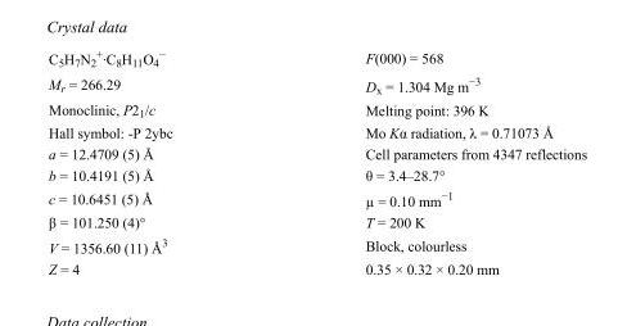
<table><tbody><tr><td>C<sub>5</sub>H<sub>7</sub>N<sub>2</sub> <sup>+</sup>·C<sub>8</sub>H<sub>11</sub>O<sub>4</sub> <sup>−</sup></td><td>F(000) = 568</td></tr><tr><td>M<sub>r</sub> = 266.29</td><td>D<sub>x</sub> = 1.304 Mg m<sup>−3</sup></td></tr><tr><td>Monoclinic, P2<sub>1</sub>/c</td><td>Melting point: 396 K</td></tr><tr><td>Hall symbol: -P 2ybc</td><td>Mo Kα radiation, λ = 0.71073 Å</td></tr><tr><td>a = 12.4709 (5) Å</td><td>Cell parameters from 4347 reflections</td></tr><tr><td>b = 10.4191 (5) Å</td><td>θ = 3.4–28.7°</td></tr><tr><td>c = 10.6451 (5) Å</td><td>µ = 0.10 mm<sup>−1</sup></td></tr><tr><td>β = 101.250 (4)°</td><td>T = 200 K</td></tr><tr><td>V = 1356.60 (11) Å<sup>3</sup></td><td>Block, colourless</td></tr><tr><td>Z = 4</td><td>0.35 × 0.32 × 0.20 mm</td></tr></tbody></table>